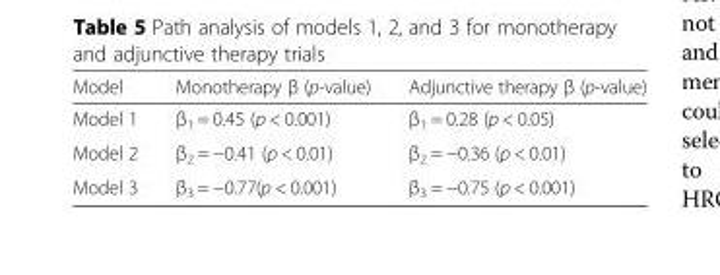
<table><thead><tr><td>Model</td><td>Monotherapy β (p-value)</td><td>Adjunctive therapy β (p-value)</td></tr></thead><tbody><tr><td>Model 1</td><td>β<sub>1</sub> = 0.45 (p &lt; 0.001)</td><td>β<sub>1</sub> = 0.28 (p &lt; 0.05)</td></tr><tr><td>Model 2</td><td>β<sub>2</sub> = −0.41 (p &lt; 0.01)</td><td>β<sub>2</sub> = −0.36 (p &lt; 0.01)</td></tr><tr><td>Model 3</td><td>β<sub>3</sub> = −0.77(p &lt; 0.001)</td><td>β<sub>3</sub> = −0.75 (p &lt; 0.001)</td></tr></tbody></table>